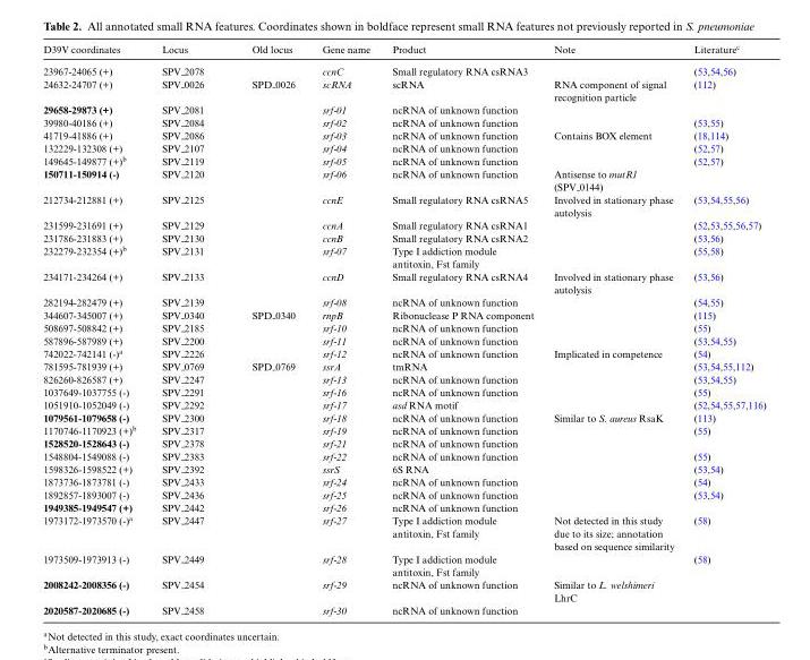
<table><thead><tr><td>D39V coordinates</td><td>Locus</td><td>Old locus</td><td>Gene name</td><td>Product</td><td>Note</td><td>Literature<sup>c</sup></td></tr></thead><tbody><tr><td>23967-24065 (+)</td><td>SPV 2078</td><td></td><td>ccnC</td><td>Small regulatory RNA csRNA3</td><td></td><td>(53,54,56)</td></tr><tr><td>24632-24707 (+)</td><td>SPV 0026</td><td>SPD 0026</td><td>scRNA</td><td>scRNA</td><td>RNA component of signal recognition particle</td><td>(112)</td></tr><tr><td>29658-29873 (+)</td><td>SPV 2081</td><td></td><td>srf-01</td><td>ncRNA of unknown function</td><td></td><td></td></tr><tr><td>39980-40186 (+)</td><td>SPV 2084</td><td></td><td>srf-02</td><td>ncRNA of unknown function</td><td></td><td>(53,55)</td></tr><tr><td>41719-41886 (+)</td><td>SPV 2086</td><td></td><td>srf-03</td><td>ncRNA of unknown function</td><td>Contains BOX element</td><td>(18,114)</td></tr><tr><td>132229-132308 (+)</td><td>SPV 2107</td><td></td><td>srf-04</td><td>ncRNA of unknown function</td><td></td><td>(52,57)</td></tr><tr><td>149645-149877 (+)<sup>b</sup></td><td>SPV 2119</td><td></td><td>srf-05</td><td>ncRNA of unknown function</td><td></td><td>(52,57)</td></tr><tr><td>150711-150914 (-)</td><td>SPV 2120</td><td></td><td>srf-06</td><td>ncRNA of unknown function</td><td>Antisense to mutR1 (SPV 0144)</td><td></td></tr><tr><td>212734-212881 (+)</td><td>SPV 2125</td><td></td><td>ccnE</td><td>Small regulatory RNA csRNA5</td><td>Involved in stationary phase autolysis</td><td>(53,54,55,56)</td></tr><tr><td>231599-231691 (+)</td><td>SPV 2129</td><td></td><td>ccnA</td><td>Small regulatory RNA csRNA1</td><td></td><td>(52,53,55,56,57)</td></tr><tr><td>231786-231883 (+)</td><td>SPV 2130</td><td></td><td>ccnB</td><td>Small regulatory RNA csRNA2</td><td></td><td>(53,56)</td></tr><tr><td>232279-232354 (+)<sup>b</sup></td><td>SPV 2131</td><td></td><td>srf-07</td><td>Type I addiction module antitoxin, Fst family</td><td></td><td>(55,58)</td></tr><tr><td>234171-234264 (+)</td><td>SPV 2133</td><td></td><td>ccnD</td><td>Small regulatory RNA csRNA4</td><td>Involved in stationary phase autolysis</td><td>(53,56)</td></tr><tr><td>282194-282479 (+)</td><td>SPV 2139</td><td></td><td>srf-08</td><td>ncRNA of unknown function</td><td></td><td>(54,55)</td></tr><tr><td>344607-345007 (+)</td><td>SPV 0340</td><td>SPD 0340</td><td>rnpB</td><td>Ribonuclease P RNA component</td><td></td><td>(115)</td></tr><tr><td>508697-508842 (+)</td><td>SPV 2185</td><td></td><td>srf-10</td><td>ncRNA of unknown function</td><td></td><td>(55)</td></tr><tr><td>587896-587989 (+)</td><td>SPV 2200</td><td></td><td>srf-11</td><td>ncRNA of unknown function</td><td></td><td>(53,54,55)</td></tr><tr><td>742022-742141 (-)<sup>a</sup></td><td>SPV 2226</td><td></td><td>srf-12</td><td>ncRNA of unknown function</td><td>Implicated in competence</td><td>(54)</td></tr><tr><td>781595-781939 (+)</td><td>SPV 0769</td><td>SPD 0769</td><td>ssrA</td><td>tmRNA</td><td></td><td>(53,54,55,112)</td></tr><tr><td>826260-826587 (+)</td><td>SPV 2247</td><td></td><td>srf-13</td><td>ncRNA of unknown function</td><td></td><td>(53,54,55)</td></tr><tr><td>1037649-1037755 (-)</td><td>SPV 2291</td><td></td><td>srf-16</td><td>ncRNA of unknown function</td><td></td><td>(55)</td></tr><tr><td>1051910-1052049 (-)</td><td>SPV 2292</td><td></td><td>srf-17</td><td>asd RNA motif</td><td></td><td>(52,54,55,57,116)</td></tr><tr><td>1079561-1079658 (-)</td><td>SPV 2300</td><td></td><td>srf-18</td><td>ncRNA of unknown function</td><td>Similar to S. aureus RsaK</td><td>(113)</td></tr><tr><td>1170746-1170923 (+)<sup>b</sup></td><td>SPV 2317</td><td></td><td>srf-19</td><td>ncRNA of unknown function</td><td></td><td>(55)</td></tr><tr><td>1528520-1528643 (-)</td><td>SPV 2378</td><td></td><td>srf-21</td><td>ncRNA of unknown function</td><td></td><td></td></tr><tr><td>1548804-1549088 (-)</td><td>SPV 2383</td><td></td><td>srf-22</td><td>ncRNA of unknown function</td><td></td><td>(55)</td></tr><tr><td>1598326-1598522 (+)</td><td>SPV 2392</td><td></td><td>ssrS</td><td>6S RNA</td><td></td><td>(53,54)</td></tr><tr><td>1873736-1873781 (-)</td><td>SPV 2433</td><td></td><td>srf-24</td><td>ncRNA of unknown function</td><td></td><td>(54)</td></tr><tr><td>1892857-1893007 (-)</td><td>SPV 2436</td><td></td><td>srf-25</td><td>ncRNA of unknown function</td><td></td><td>(53,54)</td></tr><tr><td>1949385-1949547 (+)</td><td>SPV 2442</td><td></td><td>srf-26</td><td>ncRNA of unknown function</td><td></td><td></td></tr><tr><td>1973172-1973570 (-)<sup>a</sup></td><td>SPV 2447</td><td></td><td>srf-27</td><td>Type I addiction module antitoxin, Fst family</td><td>Not detected in this study due to its size; annotation based on sequence similarity</td><td>(58)</td></tr><tr><td>1973509-1973913 (-)</td><td>SPV 2449</td><td></td><td>srf-28</td><td>Type I addiction module antitoxin, Fst family</td><td></td><td>(58)</td></tr><tr><td>2008242-2008356 (-)</td><td>SPV 2454</td><td></td><td>srf-29</td><td>ncRNA of unknown function</td><td>Similar to L. welshimeri LhrC</td><td></td></tr><tr><td>2020587-2020685 (-)</td><td>SPV 2458</td><td></td><td>srf-30</td><td>ncRNA of unknown function</td><td></td><td></td></tr></tbody></table>